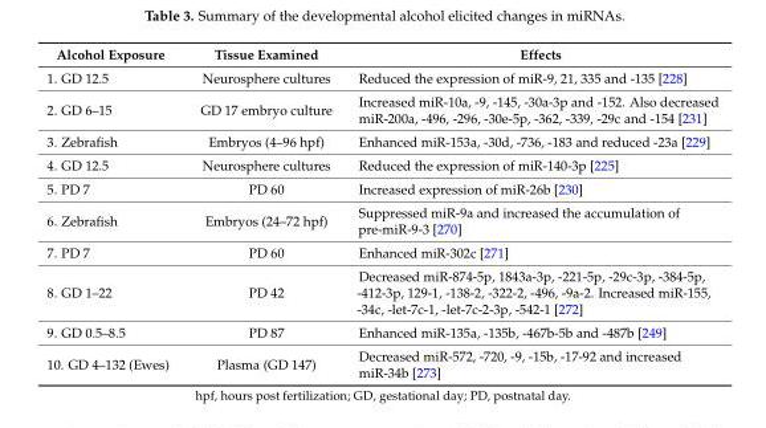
<table><thead><tr><td>Alcohol Exposure</td><td>Tissue Examined</td><td>Effects</td></tr></thead><tbody><tr><td>1. GD 12.5</td><td>Neurosphere cultures</td><td>Reduced the expression of miR-9, 21, 335 and -135 [228]</td></tr><tr><td>2. GD 6–15</td><td>GD 17 embryo culture</td><td>Increased miR-10a, -9, -145, -30a-3p and -152. Also decreased miR-200a, -496, -296, -30e-5p, -362, -339, -29c and -154 [231]</td></tr><tr><td>3. Zebrafish</td><td>Embryos (4–96 hpf)</td><td>Enhanced miR-153a, -30d, -736, -183 and reduced -23a [229]</td></tr><tr><td>4. GD 12.5</td><td>Neurosphere cultures</td><td>Reduced the expression of miR-140-3p [225]</td></tr><tr><td>5. PD 7</td><td>PD 60</td><td>Increased expression of miR-26b [230]</td></tr><tr><td>6. Zebrafish</td><td>Embryos (24–72 hpf)</td><td>Suppressed miR-9a and increased the accumulation of pre-miR-9-3 [270]</td></tr><tr><td>7. PD 7</td><td>PD 60</td><td>Enhanced miR-302c [271]</td></tr><tr><td>8. GD 1–22</td><td>PD 42</td><td>Decreased miR-874-5p, 1843a-3p, -221-5p, -29c-3p, -384-5p, -412-3p, 129-1, -138-2, -322-2, -496, -9a-2. Increased miR-155, -34c, -let-7c-1, -let-7c-2-3p, -542-1 [272]</td></tr><tr><td>9. GD 0.5–8.5</td><td>PD 87</td><td>Enhanced miR-135a, -135b, -467b-5b and -487b [249]</td></tr><tr><td>10. GD 4–132 (Ewes)</td><td>Plasma (GD 147)</td><td>Decreased miR-572, -720, -9, -15b, -17-92 and increased miR-34b [273]</td></tr></tbody></table>